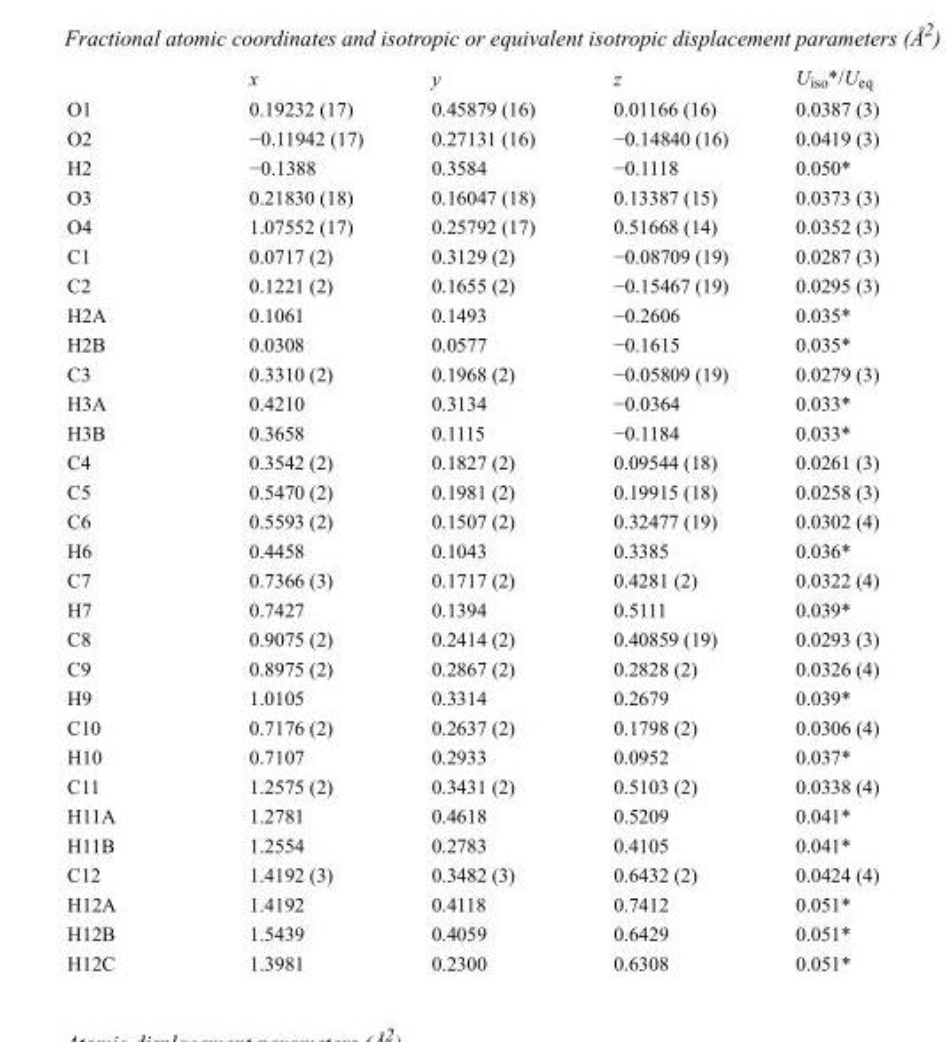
<table><thead><tr><td></td><td>x</td><td>y</td><td>z</td><td>U<sub>iso</sub>*/U<sub>eq</sub></td></tr></thead><tbody><tr><td>O1</td><td>0.19232 (17)</td><td>0.45879 (16)</td><td>0.01166 (16)</td><td>0.0387 (3)</td></tr><tr><td>O2</td><td>−0.11942 (17)</td><td>0.27131 (16)</td><td>−0.14840 (16)</td><td>0.0419 (3)</td></tr><tr><td>H2</td><td>−0.1388</td><td>0.3584</td><td>−0.1118</td><td>0.050*</td></tr><tr><td>O3</td><td>0.21830 (18)</td><td>0.16047 (18)</td><td>0.13387 (15)</td><td>0.0373 (3)</td></tr><tr><td>O4</td><td>1.07552 (17)</td><td>0.25792 (17)</td><td>0.51668 (14)</td><td>0.0352 (3)</td></tr><tr><td>C1</td><td>0.0717 (2)</td><td>0.3129 (2)</td><td>−0.08709 (19)</td><td>0.0287 (3)</td></tr><tr><td>C2</td><td>0.1221 (2)</td><td>0.1655 (2)</td><td>−0.15467 (19)</td><td>0.0295 (3)</td></tr><tr><td>H2A</td><td>0.1061</td><td>0.1493</td><td>−0.2606</td><td>0.035*</td></tr><tr><td>H2B</td><td>0.0308</td><td>0.0577</td><td>−0.1615</td><td>0.035*</td></tr><tr><td>C3</td><td>0.3310 (2)</td><td>0.1968 (2)</td><td>−0.05809 (19)</td><td>0.0279 (3)</td></tr><tr><td>H3A</td><td>0.4210</td><td>0.3134</td><td>−0.0364</td><td>0.033*</td></tr><tr><td>H3B</td><td>0.3658</td><td>0.1115</td><td>−0.1184</td><td>0.033*</td></tr><tr><td>C4</td><td>0.3542 (2)</td><td>0.1827 (2)</td><td>0.09544 (18)</td><td>0.0261 (3)</td></tr><tr><td>C5</td><td>0.5470 (2)</td><td>0.1981 (2)</td><td>0.19915 (18)</td><td>0.0258 (3)</td></tr><tr><td>C6</td><td>0.5593 (2)</td><td>0.1507 (2)</td><td>0.32477 (19)</td><td>0.0302 (4)</td></tr><tr><td>H6</td><td>0.4458</td><td>0.1043</td><td>0.3385</td><td>0.036*</td></tr><tr><td>C7</td><td>0.7366 (3)</td><td>0.1717 (2)</td><td>0.4281 (2)</td><td>0.0322 (4)</td></tr><tr><td>H7</td><td>0.7427</td><td>0.1394</td><td>0.5111</td><td>0.039*</td></tr><tr><td>C8</td><td>0.9075 (2)</td><td>0.2414 (2)</td><td>0.40859 (19)</td><td>0.0293 (3)</td></tr><tr><td>C9</td><td>0.8975 (2)</td><td>0.2867 (2)</td><td>0.2828 (2)</td><td>0.0326 (4)</td></tr><tr><td>H9</td><td>1.0105</td><td>0.3314</td><td>0.2679</td><td>0.039*</td></tr><tr><td>C10</td><td>0.7176 (2)</td><td>0.2637 (2)</td><td>0.1798 (2)</td><td>0.0306 (4)</td></tr><tr><td>H10</td><td>0.7107</td><td>0.2933</td><td>0.0952</td><td>0.037*</td></tr><tr><td>C11</td><td>1.2575 (2)</td><td>0.3431 (2)</td><td>0.5103 (2)</td><td>0.0338 (4)</td></tr><tr><td>H11A</td><td>1.2781</td><td>0.4618</td><td>0.5209</td><td>0.041*</td></tr><tr><td>H11B</td><td>1.2554</td><td>0.2783</td><td>0.4105</td><td>0.041*</td></tr><tr><td>C12</td><td>1.4192 (3)</td><td>0.3482 (3)</td><td>0.6432 (2)</td><td>0.0424 (4)</td></tr><tr><td>H12A</td><td>1.4192</td><td>0.4118</td><td>0.7412</td><td>0.051*</td></tr><tr><td>H12B</td><td>1.5439</td><td>0.4059</td><td>0.6429</td><td>0.051*</td></tr><tr><td>H12C</td><td>1.3981</td><td>0.2300</td><td>0.6308</td><td>0.051*</td></tr></tbody></table>